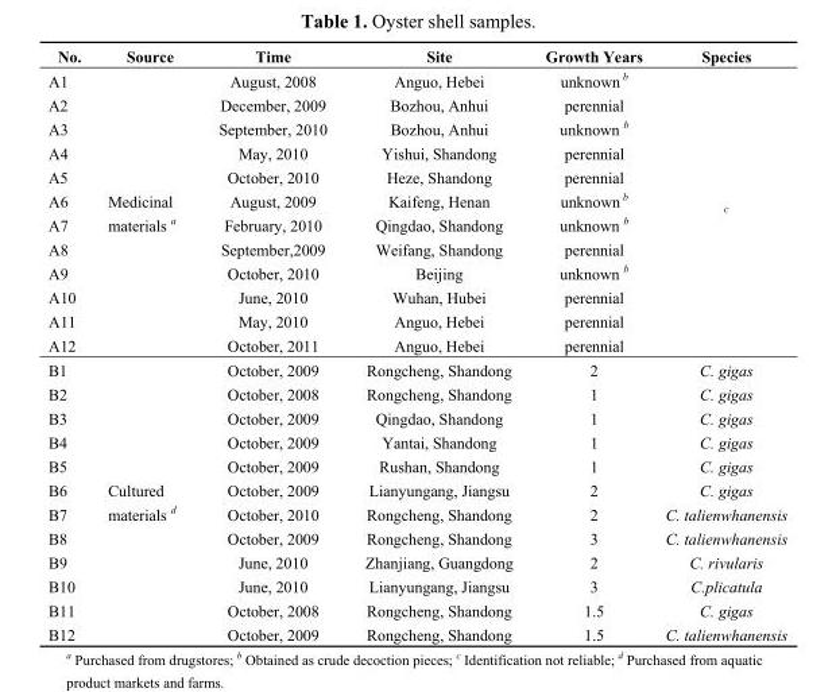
<table><thead><tr><td>No.</td><td>Source</td><td>Time</td><td>Site</td><td>Growth Years</td><td>Species</td></tr></thead><tbody><tr><td>A1</td><td rowspan="12">Medicinal materials <sup>a</sup></td><td>August, 2008</td><td>Anguo, Hebei</td><td>unknown <sup>b</sup></td><td rowspan="12"><sup>c</sup></td></tr><tr><td>A2</td><td>December, 2009</td><td>Bozhou, Anhui</td><td>perennial</td></tr><tr><td>A3</td><td>September, 2010</td><td>Bozhou, Anhui</td><td>unknown <sup>b</sup></td></tr><tr><td>A4</td><td>May, 2010</td><td>Yishui, Shandong</td><td>perennial</td></tr><tr><td>A5</td><td>October, 2010</td><td>Heze, Shandong</td><td>perennial</td></tr><tr><td>A6</td><td>August, 2009</td><td>Kaifeng, Henan</td><td>unknown <sup>b</sup></td></tr><tr><td>A7</td><td>February, 2010</td><td>Qingdao, Shandong</td><td>unknown <sup>b</sup></td></tr><tr><td>A8</td><td>September,2009</td><td>Weifang, Shandong</td><td>perennial</td></tr><tr><td>A9</td><td>October, 2010</td><td>Beijing</td><td>unknown <sup>b</sup></td></tr><tr><td>A10</td><td>June, 2010</td><td>Wuhan, Hubei</td><td>perennial</td></tr><tr><td>A11</td><td>May, 2010</td><td>Anguo, Hebei</td><td>perennial</td></tr><tr><td>A12</td><td>October, 2011</td><td>Anguo, Hebei</td><td>perennial</td></tr><tr><td>B1</td><td rowspan="12">Cultured materials <sup>d</sup></td><td>October, 2009</td><td>Rongcheng, Shandong</td><td>2</td><td>C. gigas</td></tr><tr><td>B2</td><td>October, 2008</td><td>Rongcheng, Shandong</td><td>1</td><td>C. gigas</td></tr><tr><td>B3</td><td>October, 2009</td><td>Qingdao, Shandong</td><td>1</td><td>C. gigas</td></tr><tr><td>B4</td><td>October, 2009</td><td>Yantai, Shandong</td><td>1</td><td>C. gigas</td></tr><tr><td>B5</td><td>October, 2009</td><td>Rushan, Shandong</td><td>1</td><td>C. gigas</td></tr><tr><td>B6</td><td>October, 2009</td><td>Lianyungang, Jiangsu</td><td>2</td><td>C. gigas</td></tr><tr><td>B7</td><td>October, 2010</td><td>Rongcheng, Shandong</td><td>2</td><td>C. talienwhanensis</td></tr><tr><td>B8</td><td>October, 2009</td><td>Rongcheng, Shandong</td><td>3</td><td>C. talienwhanensis</td></tr><tr><td>B9</td><td>June, 2010</td><td>Zhanjiang, Guangdong</td><td>2</td><td>C. rivularis</td></tr><tr><td>B10</td><td>June, 2010</td><td>Lianyungang, Jiangsu</td><td>3</td><td>C.plicatula</td></tr><tr><td>B11</td><td>October, 2008</td><td>Rongcheng, Shandong</td><td>1.5</td><td>C. gigas</td></tr><tr><td>B12</td><td>October, 2009</td><td>Rongcheng, Shandong</td><td>1.5</td><td>C. talienwhanensis</td></tr></tbody></table>